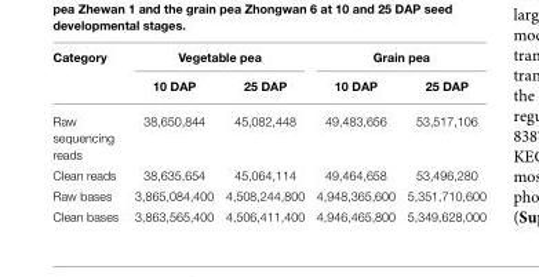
<table><thead><tr><td rowspan="2">Category</td><td colspan="2">Vegetable pea</td><td colspan="2">Grain pea</td></tr><tr><td>10 DAP</td><td>25 DAP</td><td>10 DAP</td><td>25 DAP</td></tr></thead><tbody><tr><td>Raw sequencing reads</td><td>38,650,844</td><td>45,082,448</td><td>49,483,656</td><td>53,517,106</td></tr><tr><td>Clean reads</td><td>38,635,654</td><td>45,064,114</td><td>49,464,658</td><td>53,496,280</td></tr><tr><td>Raw bases</td><td>3,865,084,400</td><td>4,508,244,800</td><td>4,948,365,600</td><td>5,351,710,600</td></tr><tr><td>Clean bases</td><td>3,863,565,400</td><td>4,506,411,400</td><td>4,946,465,800</td><td>5,349,628,000</td></tr></tbody></table>